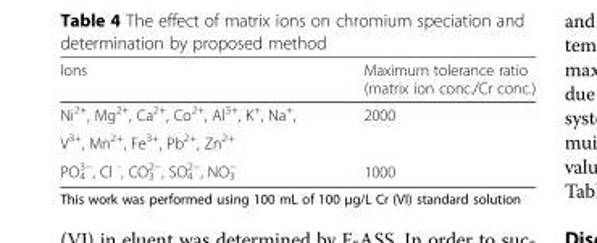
<table><thead><tr><td>Ions</td><td>Maximum tolerance ratio (matrix ion conc./Cr conc.)</td></tr></thead><tbody><tr><td>Ni<sup>2+</sup>, Mg<sup>2+</sup>, Ca<sup>2+</sup>, Co<sup>2+</sup>, Al<sup>3+</sup>, K<sup>+</sup>, Na<sup>+</sup>,</td><td rowspan="2">2000</td></tr><tr><td>V<sup>3+</sup>, Mn<sup>2+</sup>, Fe<sup>3+</sup>, Pb<sup>2+</sup>, Zn<sup>2+</sup></td></tr><tr><td>PO<sub>4</sub> <sup>3−</sup>, Cl <sup>-</sup>, CO<sub>3</sub> <sup>2−</sup>, SO<sub>4</sub> <sup>2−</sup>, NO<sub>3</sub> <sup>−</sup></td><td>1000</td></tr></tbody></table>